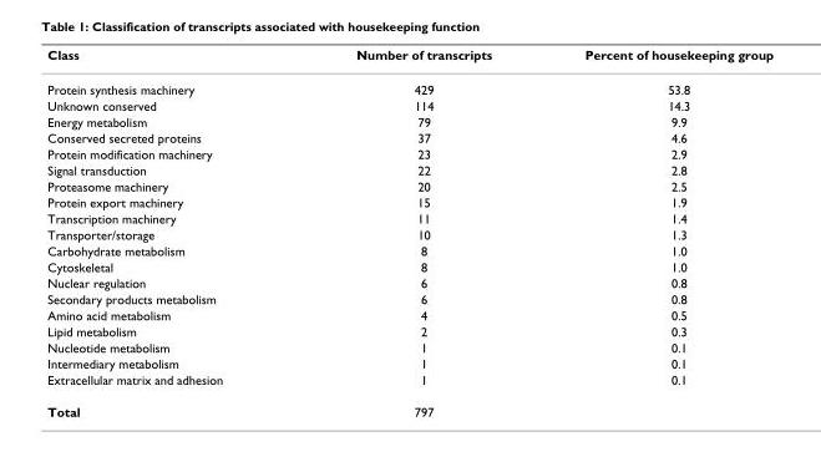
<table><thead><tr><td>Class</td><td>Number of transcripts</td><td>Percent of housekeeping group</td></tr></thead><tbody><tr><td>Protein synthesis machinery</td><td>429</td><td>53.8</td></tr><tr><td>Unknown conserved</td><td>114</td><td>14.3</td></tr><tr><td>Energy metabolism</td><td>79</td><td>9.9</td></tr><tr><td>Conserved secreted proteins</td><td>37</td><td>4.6</td></tr><tr><td>Protein modification machinery</td><td>23</td><td>2.9</td></tr><tr><td>Signal transduction</td><td>22</td><td>2.8</td></tr><tr><td>Proteasome machinery</td><td>20</td><td>2.5</td></tr><tr><td>Protein export machinery</td><td>15</td><td>1.9</td></tr><tr><td>Transcription machinery</td><td>11</td><td>1.4</td></tr><tr><td>Transporter/storage</td><td>10</td><td>1.3</td></tr><tr><td>Carbohydrate metabolism</td><td>8</td><td>1.0</td></tr><tr><td>Cytoskeletal</td><td>8</td><td>1.0</td></tr><tr><td>Nuclear regulation</td><td>6</td><td>0.8</td></tr><tr><td>Secondary products metabolism</td><td>6</td><td>0.8</td></tr><tr><td>Amino acid metabolism</td><td>4</td><td>0.5</td></tr><tr><td>Lipid metabolism</td><td>2</td><td>0.3</td></tr><tr><td>Nucleotide metabolism</td><td>1</td><td>0.1</td></tr><tr><td>Intermediary metabolism</td><td>1</td><td>0.1</td></tr><tr><td>Extracellular matrix and adhesion</td><td>1</td><td>0.1</td></tr><tr><td>Total</td><td>797</td><td></td></tr></tbody></table>